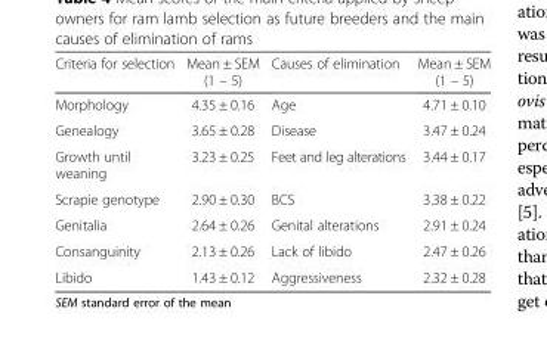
<table><thead><tr><td>Criteria for selection</td><td>Mean ± SEM (1 – 5)</td><td>Causes of elimination</td><td>Mean ± SEM (1 – 5)</td></tr></thead><tbody><tr><td>Morphology</td><td>4.35 ± 0.16</td><td>Age</td><td>4.71 ± 0.10</td></tr><tr><td>Genealogy</td><td>3.65 ± 0.28</td><td>Disease</td><td>3.47 ± 0.24</td></tr><tr><td>Growth until weaning</td><td>3.23 ± 0.25</td><td>Feet and leg alterations</td><td>3.44 ± 0.17</td></tr><tr><td>Scrapie genotype</td><td>2.90 ± 0.30</td><td>BCS</td><td>3.38 ± 0.22</td></tr><tr><td>Genitalia</td><td>2.64 ± 0.26</td><td>Genital alterations</td><td>2.91 ± 0.24</td></tr><tr><td>Consanguinity</td><td>2.13 ± 0.26</td><td>Lack of libido</td><td>2.47 ± 0.26</td></tr><tr><td>Libido</td><td>1.43 ± 0.12</td><td>Aggressiveness</td><td>2.32 ± 0.28</td></tr></tbody></table>